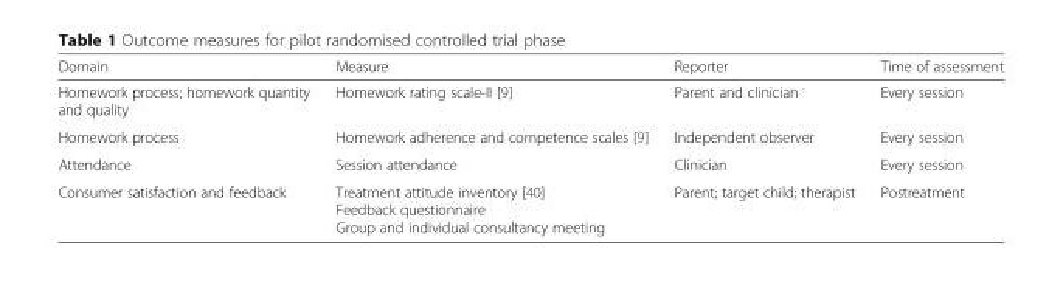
<table><thead><tr><td>Domain</td><td>Measure</td><td>Reporter</td><td>Time of assessment</td></tr></thead><tbody><tr><td>Homework process; homework quantity and quality</td><td>Homework rating scale-II [9]</td><td>Parent and clinician</td><td>Every session</td></tr><tr><td>Homework process</td><td>Homework adherence and competence scales [9]</td><td>Independent observer</td><td>Every session</td></tr><tr><td>Attendance</td><td>Session attendance</td><td>Clinician</td><td>Every session</td></tr><tr><td>Consumer satisfaction and feedback</td><td>Treatment attitude inventory [40] Feedback questionnaire Group and individual consultancy meeting</td><td>Parent; target child; therapist</td><td>Postreatment</td></tr></tbody></table>